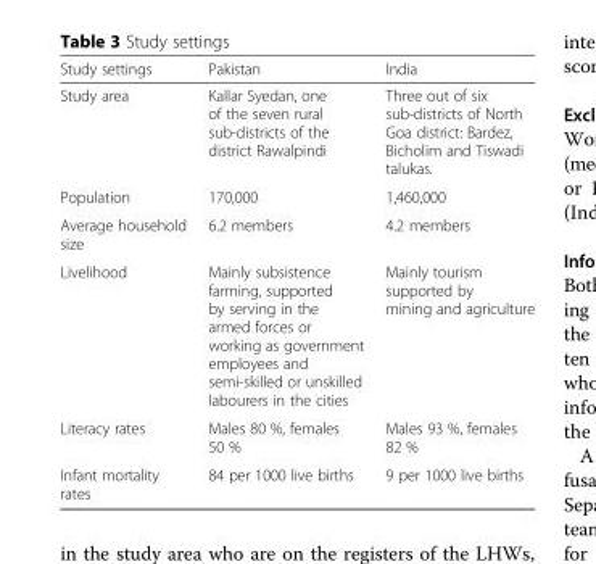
<table><thead><tr><td>Study settings</td><td>Pakistan</td><td>India</td></tr></thead><tbody><tr><td>Study area</td><td>Kallar Syedan, one of the seven rural sub-districts of the district Rawalpindi</td><td>Three out of six sub-districts of North Goa district: Bardez, Bicholim and Tiswadi talukas.</td></tr><tr><td>Population</td><td>170,000</td><td>1,460,000</td></tr><tr><td>Average household size</td><td>6.2 members</td><td>4.2 members</td></tr><tr><td>Livelihood</td><td>Mainly subsistence farming, supported by serving in the armed forces or working as government employees and semi-skilled or unskilled labourers in the cities</td><td>Mainly tourism supported by mining and agriculture</td></tr><tr><td>Literacy rates</td><td>Males 80 %, females 50 %</td><td>Males 93 %, females 82 %</td></tr><tr><td>Infant mortality rates</td><td>84 per 1000 live births</td><td>9 per 1000 live births</td></tr></tbody></table>